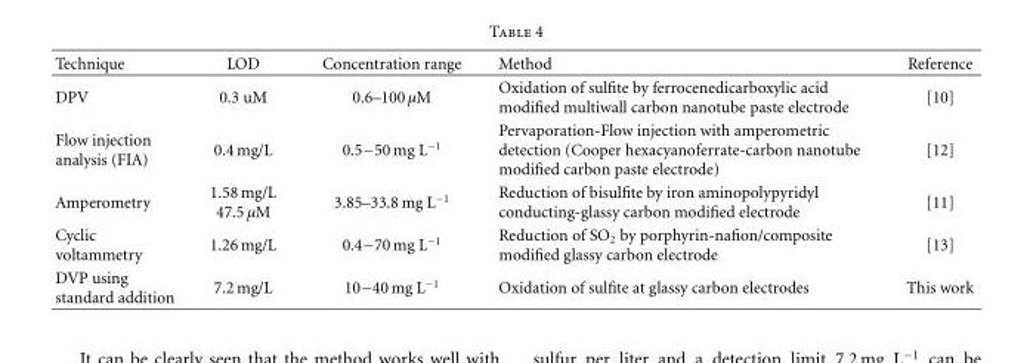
<table><thead><tr><td>Technique</td><td>LOD</td><td>Concentration range</td><td>Method</td><td>Reference</td></tr></thead><tbody><tr><td>DPV</td><td>0.3 uM</td><td>0.6–100 µM</td><td>Oxidation of sulfite by ferrocenedicarboxylic acid modified multiwall carbon nanotube paste electrode</td><td>[10]</td></tr><tr><td>Flow injection analysis (FIA)</td><td>0.4 mg/L</td><td>0.5−50 mg L<sup>−1</sup></td><td>Pervaporation-Flow injection with amperometric detection (Cooper hexacyanoferrate-carbon nanotube modified carbon paste electrode)</td><td>[12]</td></tr><tr><td>Amperometry</td><td>1.58 mg/L 47.5 µM</td><td>3.85–33.8 mg L<sup>−1</sup></td><td>Reduction of bisulfite by iron aminopolypyridyl conducting-glassy carbon modified electrode</td><td>[11]</td></tr><tr><td>Cyclic voltammetry</td><td>1.26 mg/L</td><td>0.4−70 mg L<sup>−1</sup></td><td>Reduction of SO<sub>2</sub> by porphyrin-nafion/composite modified glassy carbon electrode</td><td>[13]</td></tr><tr><td>DVP using standard addition</td><td>7.2 mg/L</td><td>10−40 mg L<sup>−1</sup></td><td>Oxidation of sulfite at glassy carbon electrodes</td><td>This work</td></tr></tbody></table>